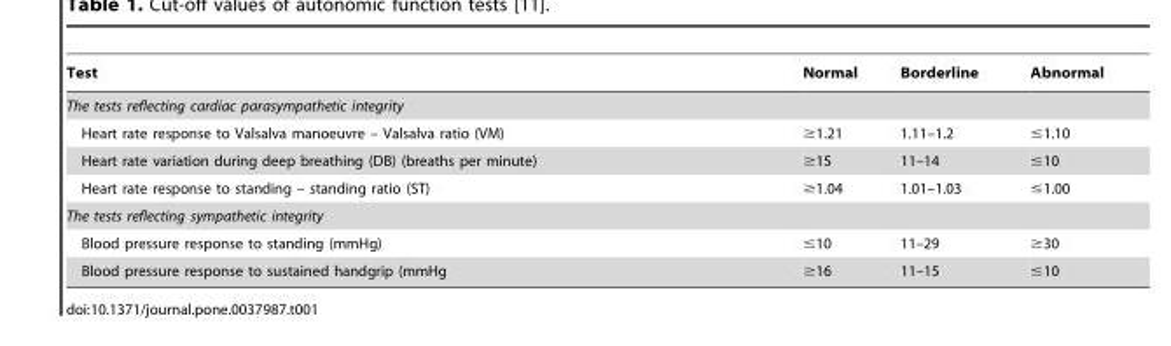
<table><thead><tr><td>Test</td><td>Normal</td><td>Borderline</td><td>Abnormal</td></tr></thead><tbody><tr><td colspan="4">The tests reflecting cardiac parasympathetic integrity</td></tr><tr><td>Heart rate response to Valsalva manoeuvre – Valsalva ratio (VM)</td><td>≥1.21</td><td>1.11–1.2</td><td>≤1.10</td></tr><tr><td>Heart rate variation during deep breathing (DB) (breaths per minute)</td><td>≥15</td><td>11–14</td><td>≤10</td></tr><tr><td>Heart rate response to standing – standing ratio (ST)</td><td>≥1.04</td><td>1.01–1.03</td><td>≤1.00</td></tr><tr><td colspan="4">The tests reflecting sympathetic integrity</td></tr><tr><td>Blood pressure response to standing (mmHg)</td><td>≤10</td><td>11–29</td><td>≥30</td></tr><tr><td>Blood pressure response to sustained handgrip (mmHg</td><td>≥16</td><td>11–15</td><td>≤10</td></tr></tbody></table>